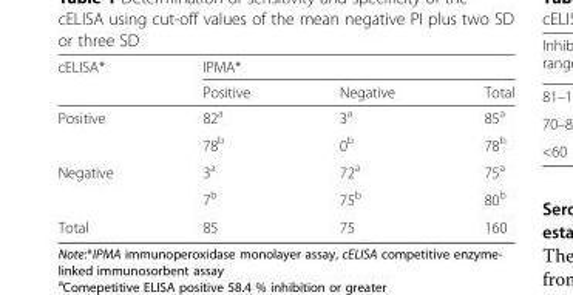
<table><thead><tr><td rowspan="2">cELISA*</td><td colspan="3">IPMA*</td></tr><tr><td>Positive</td><td>Negative</td><td>Total</td></tr></thead><tbody><tr><td rowspan="2">Positive</td><td>82<sup>a</sup></td><td>3<sup>a</sup></td><td>85<sup>a</sup></td></tr><tr><td>78<sup>b</sup></td><td>0<sup>b</sup></td><td>78<sup>b</sup></td></tr><tr><td rowspan="2">Negative</td><td>3<sup>a</sup></td><td>72<sup>a</sup></td><td>75<sup>a</sup></td></tr><tr><td>7<sup>b</sup></td><td>75<sup>b</sup></td><td>80<sup>b</sup></td></tr><tr><td>Total</td><td>85</td><td>75</td><td>160</td></tr></tbody></table>